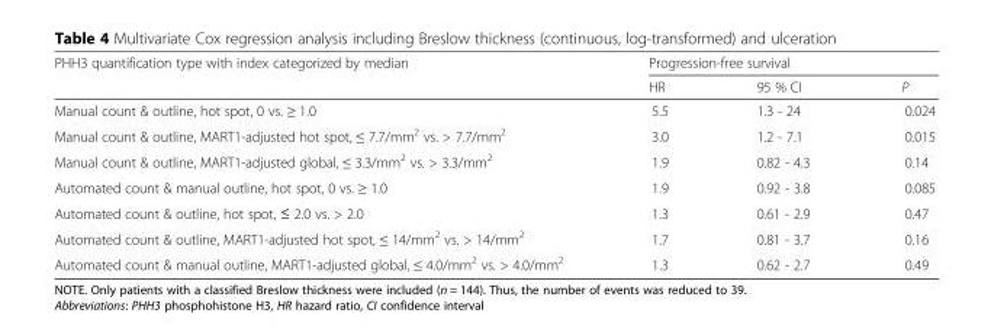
<table><thead><tr><td rowspan="2">PHH3 quantification type with index categorized by median</td><td colspan="3">Progression-free survival</td></tr><tr><td>HR</td><td>95 % CI</td><td>P</td></tr></thead><tbody><tr><td>Manual count &amp; outline, hot spot, 0 vs. ≥ 1.0</td><td>5.5</td><td>1.3 - 24</td><td>0.024</td></tr><tr><td>Manual count &amp; outline, MART1-adjusted hot spot, ≤ 7.7/mm<sup>2</sup> vs. &gt; 7.7/mm<sup>2</sup></td><td>3.0</td><td>1.2 - 7.1</td><td>0.015</td></tr><tr><td>Manual count &amp; outline, MART1-adjusted global, ≤ 3.3/mm<sup>2</sup> vs. &gt; 3.3/mm<sup>2</sup></td><td>1.9</td><td>0.82 - 4.3</td><td>0.14</td></tr><tr><td>Automated count &amp; manual outline, hot spot, 0 vs. ≥ 1.0</td><td>1.9</td><td>0.92 - 3.8</td><td>0.085</td></tr><tr><td>Automated count &amp; outline, hot spot, ≤ 2.0 vs. &gt; 2.0</td><td>1.3</td><td>0.61 - 2.9</td><td>0.47</td></tr><tr><td>Automated count &amp; outline, MART1-adjusted hot spot, ≤ 14/mm<sup>2</sup> vs. &gt; 14/mm<sup>2</sup></td><td>1.7</td><td>0.81 - 3.7</td><td>0.16</td></tr><tr><td>Automated count &amp; manual outline, MART1-adjusted global, ≤ 4.0/mm<sup>2</sup> vs. &gt; 4.0/mm<sup>2</sup></td><td>1.3</td><td>0.62 - 2.7</td><td>0.49</td></tr></tbody></table>